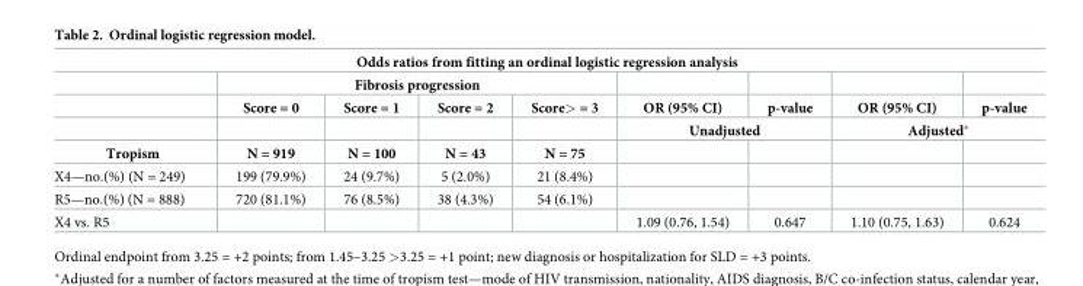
<table><thead><tr><td colspan="9">Odds ratios from fitting an ordinal logistic regression analysis</td></tr><tr><td rowspan="4">Tropism</td><td colspan="4">Fibrosis progression</td><td rowspan="2">OR (95% CI)</td><td rowspan="2">p-value</td><td rowspan="2">OR (95% CI)</td><td rowspan="2">p-value</td></tr><tr><td rowspan="3">Score = 0 N = 919</td><td rowspan="3">Score = 1 N = 100</td><td rowspan="3">Score = 2 N = 43</td><td rowspan="3">Score&gt; = 3 N = 75</td></tr><tr><td colspan="2">Unadjusted</td><td colspan="2">Adjusted*</td></tr><tr><td></td><td></td><td></td><td></td></tr></thead><tbody><tr><td>X4—no.(%) (N = 249)</td><td>199 (79.9%)</td><td>24 (9.7%)</td><td>5 (2.0%)</td><td>21 (8.4%)</td><td></td><td></td><td></td><td></td></tr><tr><td>R5—no.(%) (N = 888)</td><td>720 (81.1%)</td><td>76 (8.5%)</td><td>38 (4.3%)</td><td>54 (6.1%)</td><td></td><td></td><td></td><td></td></tr><tr><td>X4 vs. R5</td><td></td><td></td><td></td><td></td><td>1.09 (0.76, 1.54)</td><td>0.647</td><td>1.10 (0.75, 1.63)</td><td>0.624</td></tr></tbody></table>